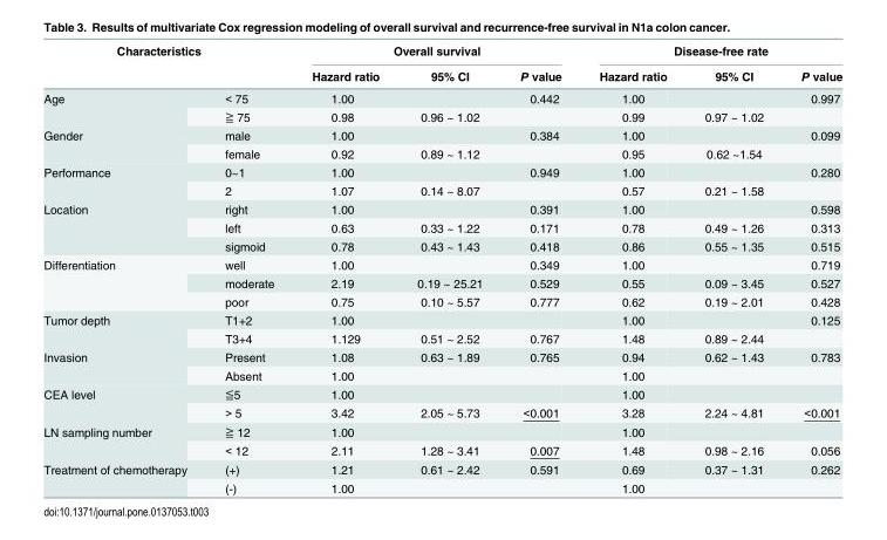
<table><thead><tr><td colspan="2">Characteristics</td><td colspan="3">Overall survival</td><td colspan="3">Disease-free rate</td></tr><tr><td></td><td></td><td>Hazard ratio</td><td>95% CI</td><td>P value</td><td>Hazard ratio</td><td>95% CI</td><td>P value</td></tr></thead><tbody><tr><td rowspan="2">Age</td><td>&lt; 75</td><td>1.00</td><td></td><td>0.442</td><td>1.00</td><td></td><td>0.997</td></tr><tr><td>≧ 75</td><td>0.98</td><td>0.96 ~ 1.02</td><td></td><td>0.99</td><td>0.97 ~ 1.02</td><td></td></tr><tr><td rowspan="2">Gender</td><td>male</td><td>1.00</td><td></td><td>0.384</td><td>1.00</td><td></td><td>0.099</td></tr><tr><td>female</td><td>0.92</td><td>0.89 ~ 1.12</td><td></td><td>0.95</td><td>0.62 ~1.54</td><td></td></tr><tr><td rowspan="2">Performance</td><td>0~1</td><td>1.00</td><td></td><td>0.949</td><td>1.00</td><td></td><td>0.280</td></tr><tr><td>2</td><td>1.07</td><td>0.14 ~ 8.07</td><td></td><td>0.57</td><td>0.21 ~ 1.58</td><td></td></tr><tr><td rowspan="3">Location</td><td>right</td><td>1.00</td><td></td><td>0.391</td><td>1.00</td><td></td><td>0.598</td></tr><tr><td>left</td><td>0.63</td><td>0.33 ~ 1.22</td><td>0.171</td><td>0.78</td><td>0.49 ~ 1.26</td><td>0.313</td></tr><tr><td>sigmoid</td><td>0.78</td><td>0.43 ~ 1.43</td><td>0.418</td><td>0.86</td><td>0.55 ~ 1.35</td><td>0.515</td></tr><tr><td rowspan="3">Differentiation</td><td>well</td><td>1.00</td><td></td><td>0.349</td><td>1.00</td><td></td><td>0.719</td></tr><tr><td>moderate</td><td>2.19</td><td>0.19 ~ 25.21</td><td>0.529</td><td>0.55</td><td>0.09 ~ 3.45</td><td>0.527</td></tr><tr><td>poor</td><td>0.75</td><td>0.10 ~ 5.57</td><td>0.777</td><td>0.62</td><td>0.19 ~ 2.01</td><td>0.428</td></tr><tr><td rowspan="2">Tumor depth</td><td>T1+2</td><td>1.00</td><td></td><td></td><td>1.00</td><td></td><td>0.125</td></tr><tr><td>T3+4</td><td>1.129</td><td>0.51 ~ 2.52</td><td>0.767</td><td>1.48</td><td>0.89 ~ 2.44</td><td></td></tr><tr><td rowspan="2">Invasion</td><td>Present</td><td>1.08</td><td>0.63 ~ 1.89</td><td>0.765</td><td>0.94</td><td>0.62 ~ 1.43</td><td>0.783</td></tr><tr><td>Absent</td><td>1.00</td><td></td><td></td><td>1.00</td><td></td><td></td></tr><tr><td rowspan="2">CEA level</td><td>≦5</td><td>1.00</td><td></td><td></td><td>1.00</td><td></td><td></td></tr><tr><td>&gt; 5</td><td>3.42</td><td>2.05 ~ 5.73</td><td>&lt;0.001</td><td>3.28</td><td>2.24 ~ 4.81</td><td>&lt;0.001</td></tr><tr><td rowspan="2">LN sampling number</td><td>≧ 12</td><td>1.00</td><td></td><td></td><td>1.00</td><td></td><td></td></tr><tr><td>&lt; 12</td><td>2.11</td><td>1.28 ~ 3.41</td><td>0.007</td><td>1.48</td><td>0.98 ~ 2.16</td><td>0.056</td></tr><tr><td rowspan="2">Treatment of chemotherapy</td><td>(+)</td><td>1.21</td><td>0.61 ~ 2.42</td><td>0.591</td><td>0.69</td><td>0.37 ~ 1.31</td><td>0.262</td></tr><tr><td>(-)</td><td>1.00</td><td></td><td></td><td>1.00</td><td></td><td></td></tr></tbody></table>